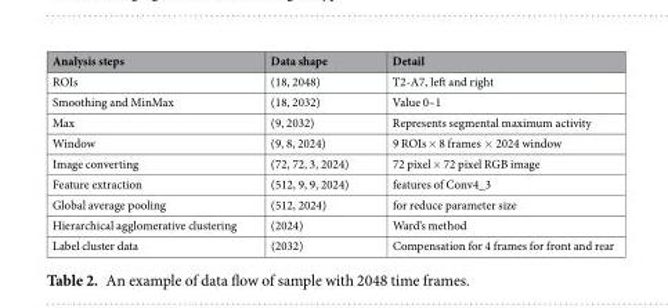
<table><thead><tr><td>Analysis steps</td><td>Data shape</td><td>Detail</td></tr></thead><tbody><tr><td>ROIs</td><td>(18, 2048)</td><td>T2-A7, left and right</td></tr><tr><td>Smoothing and MinMax</td><td>(18, 2032)</td><td>Value 0–1</td></tr><tr><td>Max</td><td>(9, 2032)</td><td>Represents segmental maximum activity</td></tr><tr><td>Window</td><td>(9, 8, 2024)</td><td>9 ROIs × 8 frames × 2024 window</td></tr><tr><td>Image converting</td><td>(72, 72, 3, 2024)</td><td>72 pixel × 72 pixel RGB image</td></tr><tr><td>Feature extraction</td><td>(512, 9, 9, 2024)</td><td>features of Conv4_3</td></tr><tr><td>Global average pooling</td><td>(512, 2024)</td><td>for reduce parameter size</td></tr><tr><td>Hierarchical agglomerative clustering</td><td>(2024)</td><td>Ward’s method</td></tr><tr><td>Label cluster data</td><td>(2032)</td><td>Compensation for 4 frames for front and rear</td></tr></tbody></table>